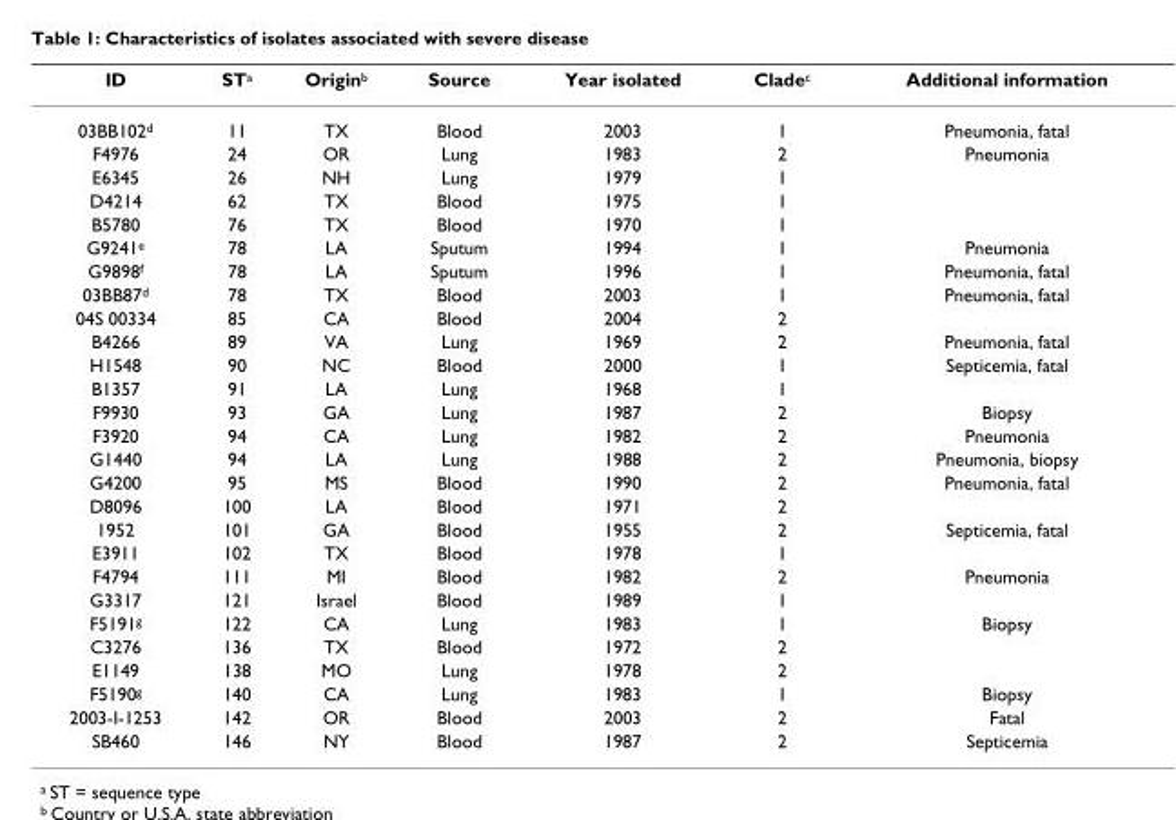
<table><thead><tr><td>ID</td><td>ST<sup>a</sup></td><td>Origin<sup>b</sup></td><td>Source</td><td>Year isolated</td><td>Clade<sup>c</sup></td><td>Additional information</td></tr></thead><tbody><tr><td>03BB102<sup>d</sup></td><td>11</td><td>TX</td><td>Blood</td><td>2003</td><td>1</td><td>Pneumonia, fatal</td></tr><tr><td>F4976</td><td>24</td><td>OR</td><td>Lung</td><td>1983</td><td>2</td><td>Pneumonia</td></tr><tr><td>E6345</td><td>26</td><td>NH</td><td>Lung</td><td>1979</td><td>1</td><td></td></tr><tr><td>D4214</td><td>62</td><td>TX</td><td>Blood</td><td>1975</td><td>1</td><td></td></tr><tr><td>B5780</td><td>76</td><td>TX</td><td>Blood</td><td>1970</td><td>1</td><td></td></tr><tr><td>G9241<sup>e</sup></td><td>78</td><td>LA</td><td>Sputum</td><td>1994</td><td>1</td><td>Pneumonia</td></tr><tr><td>G9898<sup>f</sup></td><td>78</td><td>LA</td><td>Sputum</td><td>1996</td><td>1</td><td>Pneumonia, fatal</td></tr><tr><td>03BB87<sup>d</sup></td><td>78</td><td>TX</td><td>Blood</td><td>2003</td><td>1</td><td>Pneumonia, fatal</td></tr><tr><td>04S 00334</td><td>85</td><td>CA</td><td>Blood</td><td>2004</td><td>2</td><td></td></tr><tr><td>B4266</td><td>89</td><td>VA</td><td>Lung</td><td>1969</td><td>2</td><td>Pneumonia, fatal</td></tr><tr><td>H1548</td><td>90</td><td>NC</td><td>Blood</td><td>2000</td><td>1</td><td>Septicemia, fatal</td></tr><tr><td>B1357</td><td>91</td><td>LA</td><td>Lung</td><td>1968</td><td>1</td><td></td></tr><tr><td>F9930</td><td>93</td><td>GA</td><td>Lung</td><td>1987</td><td>2</td><td>Biopsy</td></tr><tr><td>F3920</td><td>94</td><td>CA</td><td>Lung</td><td>1982</td><td>2</td><td>Pneumonia</td></tr><tr><td>G1440</td><td>94</td><td>LA</td><td>Lung</td><td>1988</td><td>2</td><td>Pneumonia, biopsy</td></tr><tr><td>G4200</td><td>95</td><td>MS</td><td>Blood</td><td>1990</td><td>2</td><td>Pneumonia, fatal</td></tr><tr><td>D8096</td><td>100</td><td>LA</td><td>Blood</td><td>1971</td><td>2</td><td></td></tr><tr><td>1952</td><td>101</td><td>GA</td><td>Blood</td><td>1955</td><td>2</td><td>Septicemia, fatal</td></tr><tr><td>E3911</td><td>102</td><td>TX</td><td>Blood</td><td>1978</td><td>1</td><td></td></tr><tr><td>F4794</td><td>111</td><td>MI</td><td>Blood</td><td>1982</td><td>2</td><td>Pneumonia</td></tr><tr><td>G3317</td><td>121</td><td>Israel</td><td>Blood</td><td>1989</td><td>1</td><td></td></tr><tr><td>F5191<sup>g</sup></td><td>122</td><td>CA</td><td>Lung</td><td>1983</td><td>1</td><td>Biopsy</td></tr><tr><td>C3276</td><td>136</td><td>TX</td><td>Blood</td><td>1972</td><td>2</td><td></td></tr><tr><td>E1149</td><td>138</td><td>MO</td><td>Lung</td><td>1978</td><td>2</td><td></td></tr><tr><td>F5190<sup>g</sup></td><td>140</td><td>CA</td><td>Lung</td><td>1983</td><td>1</td><td>Biopsy</td></tr><tr><td>2003-I-1253</td><td>142</td><td>OR</td><td>Blood</td><td>2003</td><td>2</td><td>Fatal</td></tr><tr><td>SB460</td><td>146</td><td>NY</td><td>Blood</td><td>1987</td><td>2</td><td>Septicemia</td></tr></tbody></table>